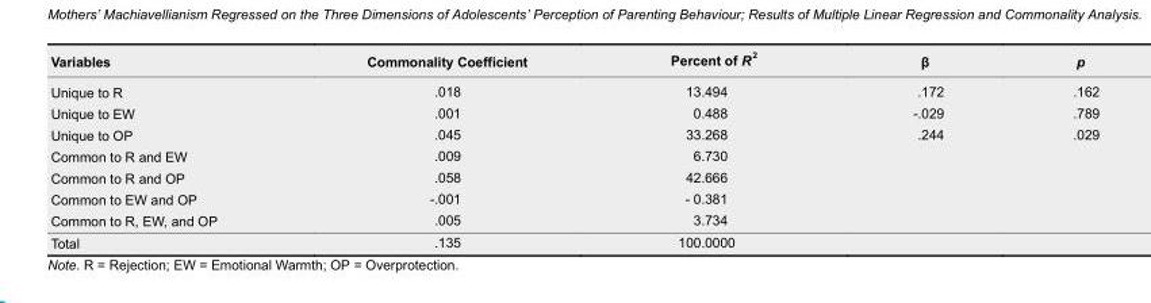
<table><thead><tr><td>Variables</td><td>Commonality Coefficient</td><td>Percent of R <sup>2</sup></td><td>β</td><td>p</td></tr></thead><tbody><tr><td>Unique to R</td><td>.018</td><td>13.494</td><td>.172</td><td>.162</td></tr><tr><td>Unique to EW</td><td>.001</td><td>0.488</td><td>-.029</td><td>.789</td></tr><tr><td>Unique to OP</td><td>.045</td><td>33.268</td><td>.244</td><td>.029</td></tr><tr><td>Common to R and EW</td><td>.009</td><td>6.730</td><td></td><td></td></tr><tr><td>Common to R and OP</td><td>.058</td><td>42.666</td><td></td><td></td></tr><tr><td>Common to EW and OP</td><td>-.001</td><td>- 0.381</td><td></td><td></td></tr><tr><td>Common to R, EW, and OP</td><td>.005</td><td>3.734</td><td></td><td></td></tr><tr><td>Total</td><td>.135</td><td>100.0000</td><td></td><td></td></tr></tbody></table>